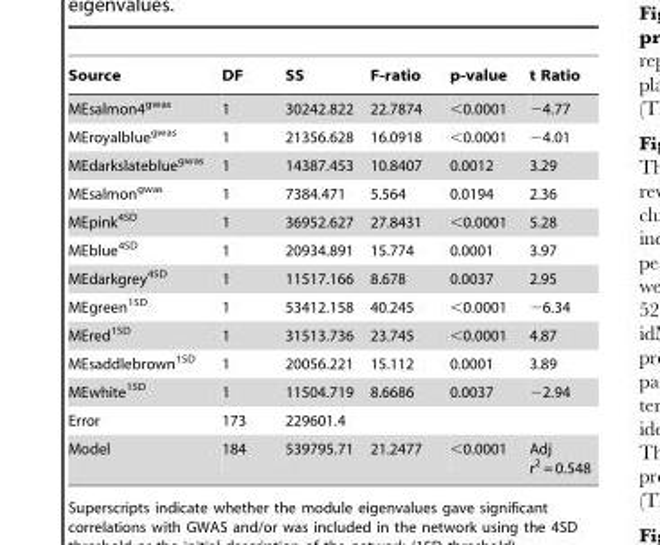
<table><thead><tr><td>Source</td><td>DF</td><td>SS</td><td>F-ratio</td><td>p-value</td><td>t Ratio</td></tr></thead><tbody><tr><td>MEsalmon4<sup>gwas</sup></td><td>1</td><td>30242.822</td><td>22.7874</td><td>&lt;0.0001</td><td>−4.77</td></tr><tr><td>MEroyalblue<sup>gwas</sup></td><td>1</td><td>21356.628</td><td>16.0918</td><td>&lt;0.0001</td><td>−4.01</td></tr><tr><td>MEdarkslateblue<sup>gwas</sup></td><td>1</td><td>14387.453</td><td>10.8407</td><td>0.0012</td><td>3.29</td></tr><tr><td>MEsalmon<sup>gwas</sup></td><td>1</td><td>7384.471</td><td>5.564</td><td>0.0194</td><td>2.36</td></tr><tr><td>MEpink<sup>4SD</sup></td><td>1</td><td>36952.627</td><td>27.8431</td><td>&lt;0.0001</td><td>5.28</td></tr><tr><td>MEblue<sup>4SD</sup></td><td>1</td><td>20934.891</td><td>15.774</td><td>0.0001</td><td>3.97</td></tr><tr><td>MEdarkgrey<sup>4SD</sup></td><td>1</td><td>11517.166</td><td>8.678</td><td>0.0037</td><td>2.95</td></tr><tr><td>MEgreen<sup>1SD</sup></td><td>1</td><td>53412.158</td><td>40.245</td><td>&lt;0.0001</td><td>−6.34</td></tr><tr><td>MEred<sup>1SD</sup></td><td>1</td><td>31513.736</td><td>23.745</td><td>&lt;0.0001</td><td>4.87</td></tr><tr><td>MEsaddlebrown<sup>1SD</sup></td><td>1</td><td>20056.221</td><td>15.112</td><td>0.0001</td><td>3.89</td></tr><tr><td>MEwhite<sup>1SD</sup></td><td>1</td><td>11504.719</td><td>8.6686</td><td>0.0037</td><td>−2.94</td></tr><tr><td>Error</td><td>173</td><td>229601.4</td><td></td><td></td><td></td></tr><tr><td>Model</td><td>184</td><td>539795.71</td><td>21.2477</td><td>&lt;0.0001</td><td>Adj r<sup>2</sup> = 0.548</td></tr></tbody></table>